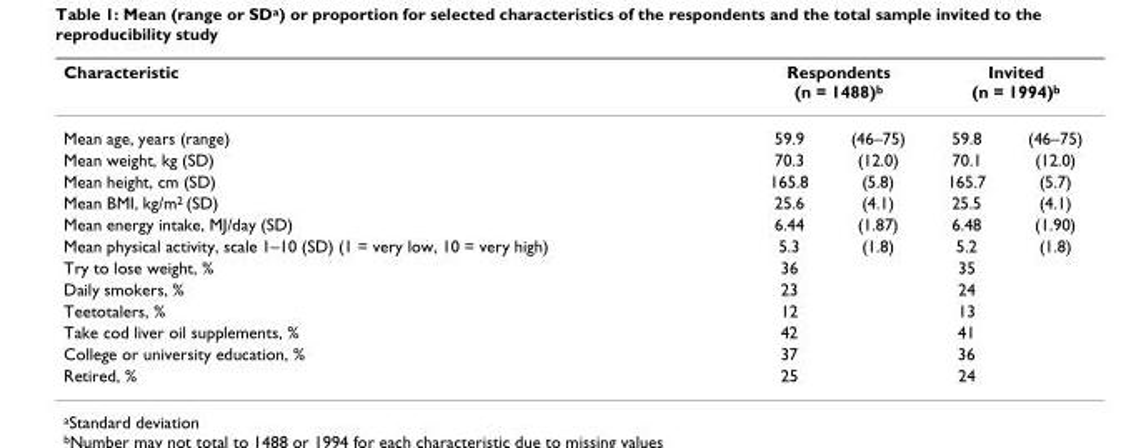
<table><thead><tr><td rowspan="2">Characteristic Mean age, years (range)</td><td colspan="2">Respondents (n = 1488)<sup>b</sup></td><td colspan="2">Invited (n = 1994)<sup>b</sup></td></tr><tr><td>59.9</td><td>(46–75)</td><td>59.8</td><td>(46–75)</td></tr></thead><tbody><tr><td>Mean weight, kg (SD)</td><td>70.3</td><td>(12.0)</td><td>70.1</td><td>(12.0)</td></tr><tr><td>Mean height, cm (SD)</td><td>165.8</td><td>(5.8)</td><td>165.7</td><td>(5.7)</td></tr><tr><td>Mean BMI, kg/m<sup>2</sup> (SD)</td><td>25.6</td><td>(4.1)</td><td>25.5</td><td>(4.1)</td></tr><tr><td>Mean energy intake, MJ/day (SD)</td><td>6.44</td><td>(1.87)</td><td>6.48</td><td>(1.90)</td></tr><tr><td>Mean physical activity, scale 1–10 (SD) (1 = very low, 10 = very high)</td><td>5.3</td><td>(1.8)</td><td>5.2</td><td>(1.8)</td></tr><tr><td>Try to lose weight, %</td><td>36</td><td></td><td>35</td><td></td></tr><tr><td>Daily smokers, %</td><td>23</td><td></td><td>24</td><td></td></tr><tr><td>Teetotalers, %</td><td>12</td><td></td><td>13</td><td></td></tr><tr><td>Take cod liver oil supplements, %</td><td>42</td><td></td><td>41</td><td></td></tr><tr><td>College or university education, %</td><td>37</td><td></td><td>36</td><td></td></tr><tr><td>Retired, %</td><td>25</td><td></td><td>24</td><td></td></tr></tbody></table>